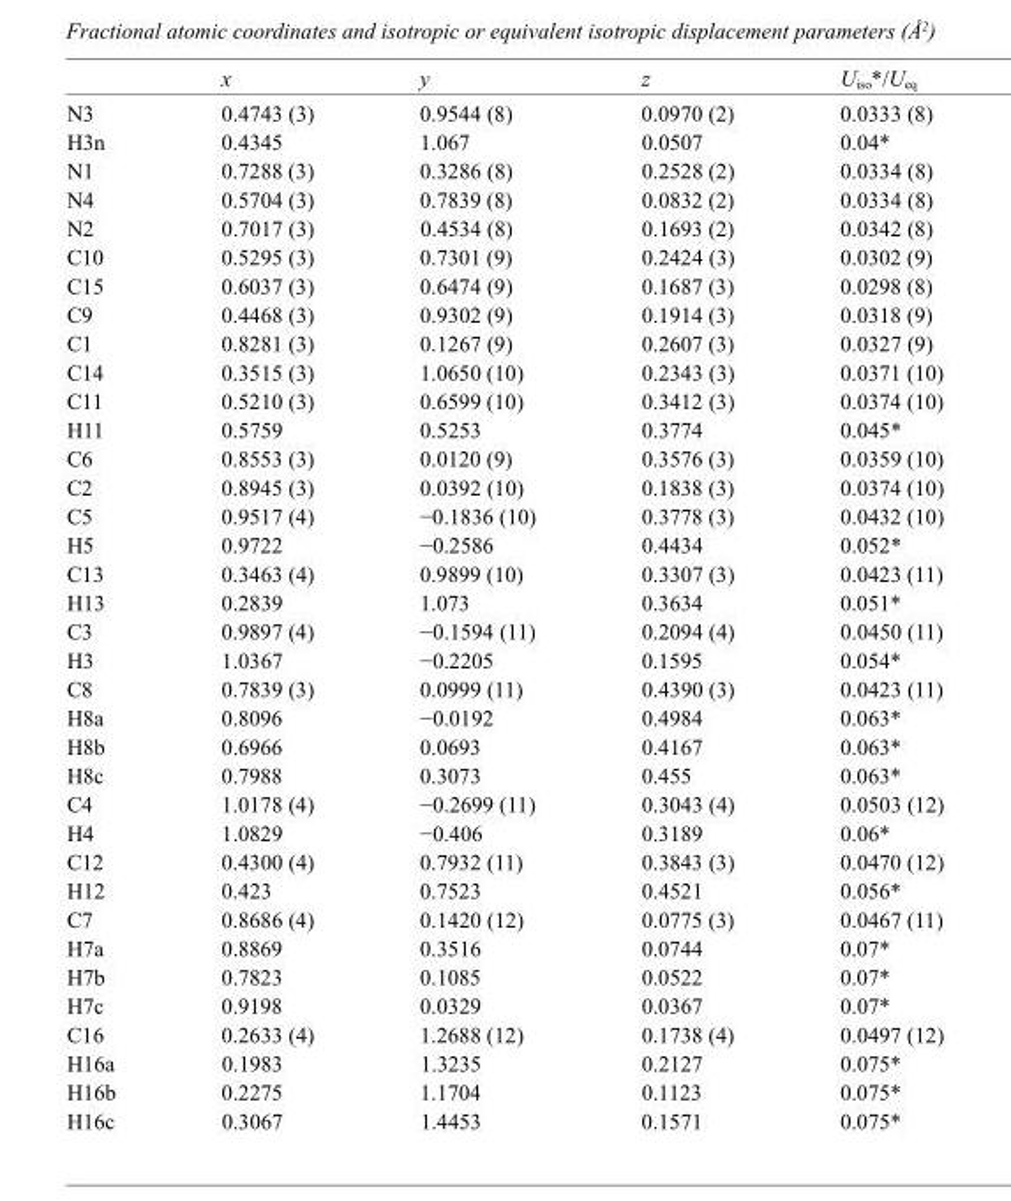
<table><thead><tr><td></td><td>x</td><td>y</td><td>z</td><td>U<sub>iso</sub>*/U<sub>eq</sub></td></tr></thead><tbody><tr><td>N3</td><td>0.4743 (3)</td><td>0.9544 (8)</td><td>0.0970 (2)</td><td>0.0333 (8)</td></tr><tr><td>H3n</td><td>0.4345</td><td>1.067</td><td>0.0507</td><td>0.04*</td></tr><tr><td>N1</td><td>0.7288 (3)</td><td>0.3286 (8)</td><td>0.2528 (2)</td><td>0.0334 (8)</td></tr><tr><td>N4</td><td>0.5704 (3)</td><td>0.7839 (8)</td><td>0.0832 (2)</td><td>0.0334 (8)</td></tr><tr><td>N2</td><td>0.7017 (3)</td><td>0.4534 (8)</td><td>0.1693 (2)</td><td>0.0342 (8)</td></tr><tr><td>C10</td><td>0.5295 (3)</td><td>0.7301 (9)</td><td>0.2424 (3)</td><td>0.0302 (9)</td></tr><tr><td>C15</td><td>0.6037 (3)</td><td>0.6474 (9)</td><td>0.1687 (3)</td><td>0.0298 (8)</td></tr><tr><td>C9</td><td>0.4468 (3)</td><td>0.9302 (9)</td><td>0.1914 (3)</td><td>0.0318 (9)</td></tr><tr><td>C1</td><td>0.8281 (3)</td><td>0.1267 (9)</td><td>0.2607 (3)</td><td>0.0327 (9)</td></tr><tr><td>C14</td><td>0.3515 (3)</td><td>1.0650 (10)</td><td>0.2343 (3)</td><td>0.0371 (10)</td></tr><tr><td>C11</td><td>0.5210 (3)</td><td>0.6599 (10)</td><td>0.3412 (3)</td><td>0.0374 (10)</td></tr><tr><td>H11</td><td>0.5759</td><td>0.5253</td><td>0.3774</td><td>0.045*</td></tr><tr><td>C6</td><td>0.8553 (3)</td><td>0.0120 (9)</td><td>0.3576 (3)</td><td>0.0359 (10)</td></tr><tr><td>C2</td><td>0.8945 (3)</td><td>0.0392 (10)</td><td>0.1838 (3)</td><td>0.0374 (10)</td></tr><tr><td>C5</td><td>0.9517 (4)</td><td>−0.1836 (10)</td><td>0.3778 (3)</td><td>0.0432 (10)</td></tr><tr><td>H5</td><td>0.9722</td><td>−0.2586</td><td>0.4434</td><td>0.052*</td></tr><tr><td>C13</td><td>0.3463 (4)</td><td>0.9899 (10)</td><td>0.3307 (3)</td><td>0.0423 (11)</td></tr><tr><td>H13</td><td>0.2839</td><td>1.073</td><td>0.3634</td><td>0.051*</td></tr><tr><td>C3</td><td>0.9897 (4)</td><td>−0.1594 (11)</td><td>0.2094 (4)</td><td>0.0450 (11)</td></tr><tr><td>H3</td><td>1.0367</td><td>−0.2205</td><td>0.1595</td><td>0.054*</td></tr><tr><td>C8</td><td>0.7839 (3)</td><td>0.0999 (11)</td><td>0.4390 (3)</td><td>0.0423 (11)</td></tr><tr><td>H8a</td><td>0.8096</td><td>−0.0192</td><td>0.4984</td><td>0.063*</td></tr><tr><td>H8b</td><td>0.6966</td><td>0.0693</td><td>0.4167</td><td>0.063*</td></tr><tr><td>H8c</td><td>0.7988</td><td>0.3073</td><td>0.455</td><td>0.063*</td></tr><tr><td>C4</td><td>1.0178 (4)</td><td>−0.2699 (11)</td><td>0.3043 (4)</td><td>0.0503 (12)</td></tr><tr><td>H4</td><td>1.0829</td><td>−0.406</td><td>0.3189</td><td>0.06*</td></tr><tr><td>C12</td><td>0.4300 (4)</td><td>0.7932 (11)</td><td>0.3843 (3)</td><td>0.0470 (12)</td></tr><tr><td>H12</td><td>0.423</td><td>0.7523</td><td>0.4521</td><td>0.056*</td></tr><tr><td>C7</td><td>0.8686 (4)</td><td>0.1420 (12)</td><td>0.0775 (3)</td><td>0.0467 (11)</td></tr><tr><td>H7a</td><td>0.8869</td><td>0.3516</td><td>0.0744</td><td>0.07*</td></tr><tr><td>H7b</td><td>0.7823</td><td>0.1085</td><td>0.0522</td><td>0.07*</td></tr><tr><td>H7c</td><td>0.9198</td><td>0.0329</td><td>0.0367</td><td>0.07*</td></tr><tr><td>C16</td><td>0.2633 (4)</td><td>1.2688 (12)</td><td>0.1738 (4)</td><td>0.0497 (12)</td></tr><tr><td>H16a</td><td>0.1983</td><td>1.3235</td><td>0.2127</td><td>0.075*</td></tr><tr><td>H16b</td><td>0.2275</td><td>1.1704</td><td>0.1123</td><td>0.075*</td></tr><tr><td>H16c</td><td>0.3067</td><td>1.4453</td><td>0.1571</td><td>0.075*</td></tr></tbody></table>